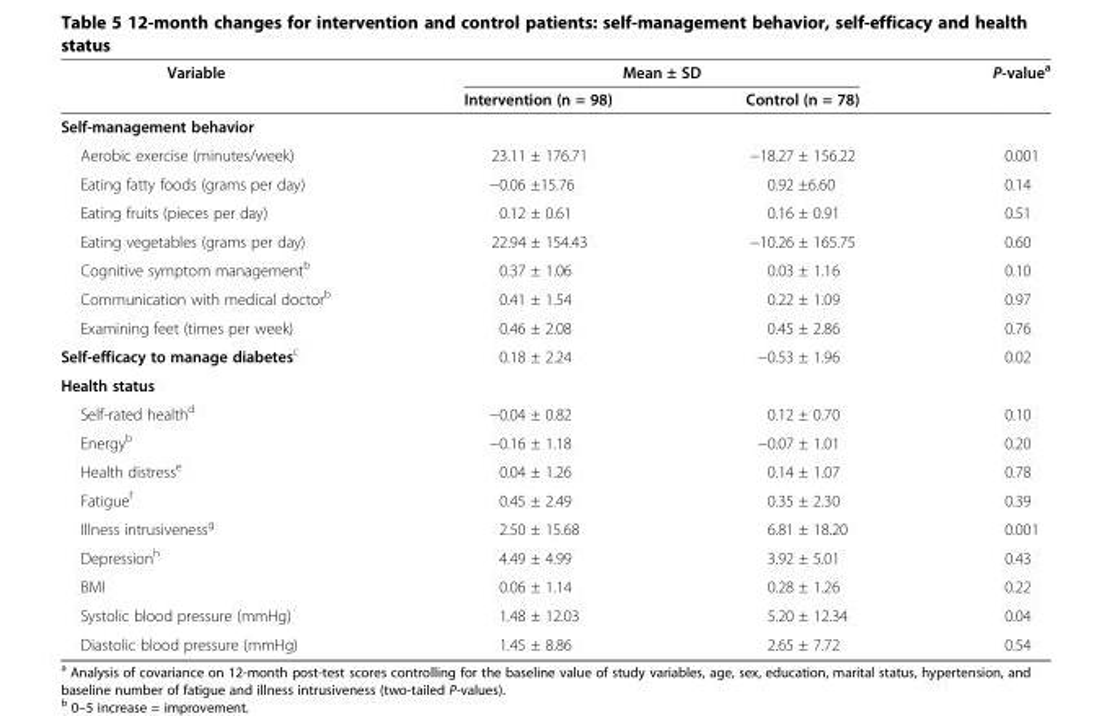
<table><thead><tr><td rowspan="2">Variable</td><td colspan="2">Mean ± SD</td><td rowspan="2">P-value<sup>a</sup></td></tr><tr><td>Intervention (n = 98)</td><td>Control (n = 78)</td></tr></thead><tbody><tr><td colspan="4">Self-management behavior</td></tr><tr><td>Aerobic exercise (minutes/week)</td><td>23.11 ± 176.71</td><td>−18.27 ± 156.22</td><td>0.001</td></tr><tr><td>Eating fatty foods (grams per day)</td><td>−0.06 ±15.76</td><td>0.92 ±6.60</td><td>0.14</td></tr><tr><td>Eating fruits (pieces per day)</td><td>0.12 ± 0.61</td><td>0.16 ± 0.91</td><td>0.51</td></tr><tr><td>Eating vegetables (grams per day)</td><td>22.94 ± 154.43</td><td>−10.26 ± 165.75</td><td>0.60</td></tr><tr><td>Cognitive symptom management<sup>b</sup></td><td>0.37 ± 1.06</td><td>0.03 ± 1.16</td><td>0.10</td></tr><tr><td>Communication with medical doctor<sup>b</sup></td><td>0.41 ± 1.54</td><td>0.22 ± 1.09</td><td>0.97</td></tr><tr><td>Examining feet (times per week)</td><td>0.46 ± 2.08</td><td>0.45 ± 2.86</td><td>0.76</td></tr><tr><td>Self-efficacy to manage diabetes<sup>c</sup></td><td>0.18 ± 2.24</td><td>−0.53 ± 1.96</td><td>0.02</td></tr><tr><td colspan="4">Health status</td></tr><tr><td>Self-rated health<sup>d</sup></td><td>−0.04 ± 0.82</td><td>0.12 ± 0.70</td><td>0.10</td></tr><tr><td>Energy<sup>b</sup></td><td>−0.16 ± 1.18</td><td>−0.07 ± 1.01</td><td>0.20</td></tr><tr><td>Health distress<sup>e</sup></td><td>0.04 ± 1.26</td><td>0.14 ± 1.07</td><td>0.78</td></tr><tr><td>Fatigue<sup>f</sup></td><td>0.45 ± 2.49</td><td>0.35 ± 2.30</td><td>0.39</td></tr><tr><td>Illness intrusiveness<sup>g</sup></td><td>2.50 ± 15.68</td><td>6.81 ± 18.20</td><td>0.001</td></tr><tr><td>Depression<sup>h</sup></td><td>4.49 ± 4.99</td><td>3.92 ± 5.01</td><td>0.43</td></tr><tr><td>BMI</td><td>0.06 ± 1.14</td><td>0.28 ± 1.26</td><td>0.22</td></tr><tr><td>Systolic blood pressure (mmHg)</td><td>1.48 ± 12.03</td><td>5.20 ± 12.34</td><td>0.04</td></tr><tr><td>Diastolic blood pressure (mmHg)</td><td>1.45 ± 8.86</td><td>2.65 ± 7.72</td><td>0.54</td></tr></tbody></table>